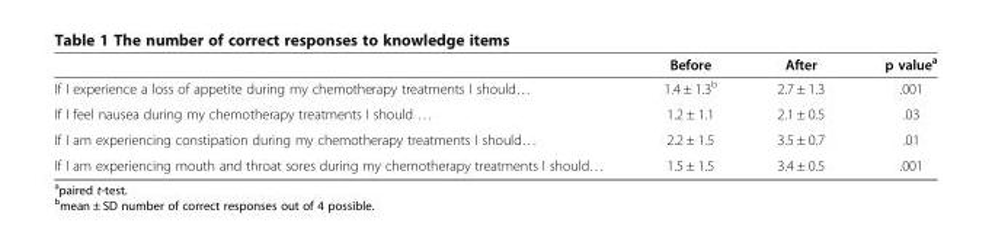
<table><thead><tr><td></td><td>Before</td><td>After</td><td>p value<sup>a</sup></td></tr></thead><tbody><tr><td>If I experience a loss of appetite during my chemotherapy treatments I should…</td><td>1.4 ± 1.3<sup>b</sup></td><td>2.7 ± 1.3</td><td>.001</td></tr><tr><td>If I feel nausea during my chemotherapy treatments I should …</td><td>1.2 ± 1.1</td><td>2.1 ± 0.5</td><td>.03</td></tr><tr><td>If I am experiencing constipation during my chemotherapy treatments I should…</td><td>2.2 ± 1.5</td><td>3.5 ± 0.7</td><td>.01</td></tr><tr><td>If I am experiencing mouth and throat sores during my chemotherapy treatments I should…</td><td>1.5 ± 1.5</td><td>3.4 ± 0.5</td><td>.001</td></tr></tbody></table>